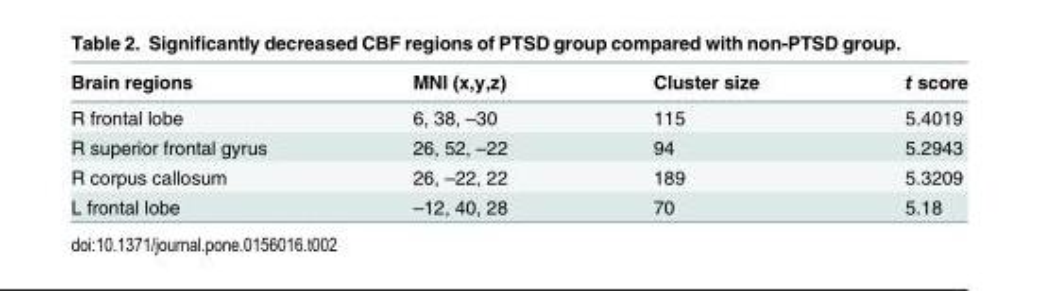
<table><thead><tr><td>Brain regions</td><td>MNI (x,y,z)</td><td>Cluster size</td><td>t score</td></tr></thead><tbody><tr><td>R frontal lobe</td><td>6, 38, –30</td><td>115</td><td>5.4019</td></tr><tr><td>R superior frontal gyrus</td><td>26, 52, –22</td><td>94</td><td>5.2943</td></tr><tr><td>R corpus callosum</td><td>26, –22, 22</td><td>189</td><td>5.3209</td></tr><tr><td>L frontal lobe</td><td>–12, 40, 28</td><td>70</td><td>5.18</td></tr></tbody></table>